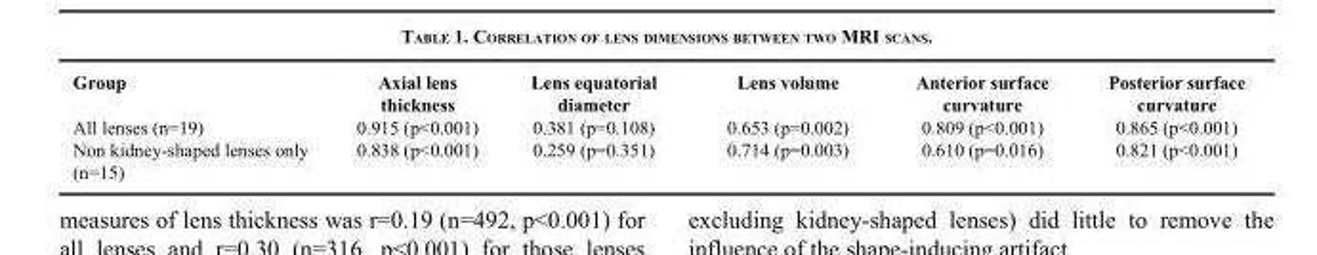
<table><thead><tr><td>Group</td><td>Axial lens thickness</td><td>Lens equatorial diameter</td><td>Lens volume</td><td>Anterior surface curvature</td><td>Posterior surface curvature</td></tr></thead><tbody><tr><td>All lenses (n=19)</td><td>0.915 (p&lt;0.001)</td><td>0.381 (p=0.108)</td><td>0.653 (p=0.002)</td><td>0.809 (p&lt;0.001)</td><td>0.865 (p&lt;0.001)</td></tr><tr><td>Non kidney-shaped lenses only (n=15)</td><td>0.838 (p&lt;0.001)</td><td>0.259 (p=0.351)</td><td>0.714 (p=0.003)</td><td>0.610 (p=0.016)</td><td>0.821 (p&lt;0.001)</td></tr></tbody></table>